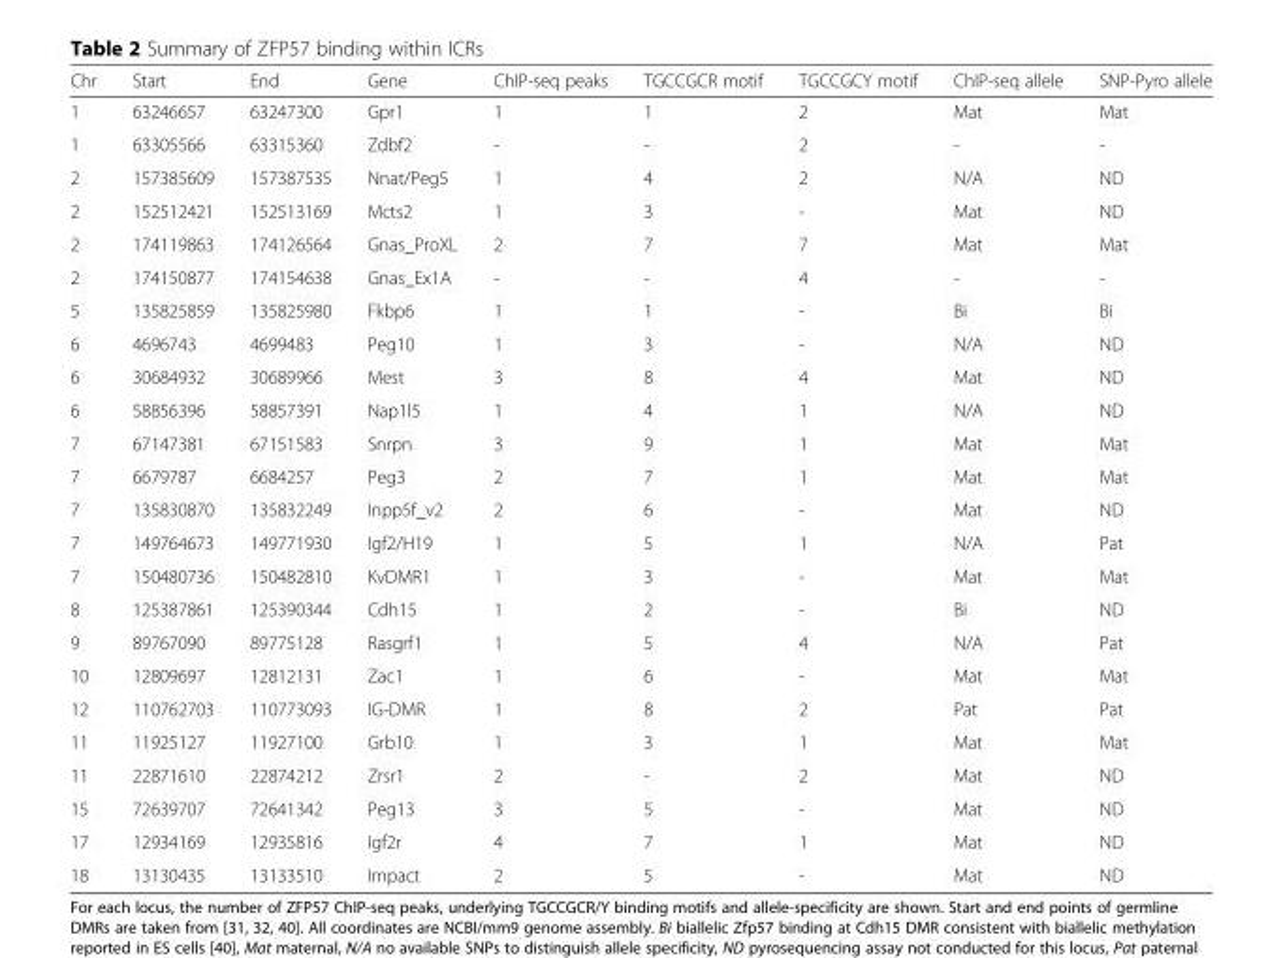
<table><thead><tr><td>Chr</td><td>Start</td><td>End</td><td>Gene</td><td>ChIP-seq peaks</td><td>TGCCGCR motif</td><td>TGCCGCY motif</td><td>ChIP-seq allele</td><td>SNP-Pyro allele</td></tr></thead><tbody><tr><td>1</td><td>63246657</td><td>63247300</td><td>Gpr1</td><td>1</td><td>1</td><td>2</td><td>Mat</td><td>Mat</td></tr><tr><td>1</td><td>63305566</td><td>63315360</td><td>Zdbf2</td><td>-</td><td>-</td><td>2</td><td>-</td><td>-</td></tr><tr><td>2</td><td>157385609</td><td>157387535</td><td>Nnat/Peg5</td><td>1</td><td>4</td><td>2</td><td>N/A</td><td>ND</td></tr><tr><td>2</td><td>152512421</td><td>152513169</td><td>Mcts2</td><td>1</td><td>3</td><td>-</td><td>Mat</td><td>ND</td></tr><tr><td>2</td><td>174119863</td><td>174126564</td><td>Gnas_ProXL</td><td>2</td><td>7</td><td>7</td><td>Mat</td><td>Mat</td></tr><tr><td>2</td><td>174150877</td><td>174154638</td><td>Gnas_Ex1A</td><td>-</td><td>-</td><td>4</td><td>-</td><td>-</td></tr><tr><td>5</td><td>135825859</td><td>135825980</td><td>Fkbp6</td><td>1</td><td>1</td><td>-</td><td>Bi</td><td>Bi</td></tr><tr><td>6</td><td>4696743</td><td>4699483</td><td>Peg10</td><td>1</td><td>3</td><td>-</td><td>N/A</td><td>ND</td></tr><tr><td>6</td><td>30684932</td><td>30689966</td><td>Mest</td><td>3</td><td>8</td><td>4</td><td>Mat</td><td>ND</td></tr><tr><td>6</td><td>58856396</td><td>58857391</td><td>Nap1l5</td><td>1</td><td>4</td><td>1</td><td>N/A</td><td>ND</td></tr><tr><td>7</td><td>67147381</td><td>67151583</td><td>Snrpn</td><td>3</td><td>9</td><td>1</td><td>Mat</td><td>Mat</td></tr><tr><td>7</td><td>6679787</td><td>6684257</td><td>Peg3</td><td>2</td><td>7</td><td>1</td><td>Mat</td><td>Mat</td></tr><tr><td>7</td><td>135830870</td><td>135832249</td><td>Inpp5f_v2</td><td>2</td><td>6</td><td>-</td><td>Mat</td><td>ND</td></tr><tr><td>7</td><td>149764673</td><td>149771930</td><td>Igf2/H19</td><td>1</td><td>5</td><td>1</td><td>N/A</td><td>Pat</td></tr><tr><td>7</td><td>150480736</td><td>150482810</td><td>KvDMR1</td><td>1</td><td>3</td><td>-</td><td>Mat</td><td>Mat</td></tr><tr><td>8</td><td>125387861</td><td>125390344</td><td>Cdh15</td><td>1</td><td>2</td><td>-</td><td>Bi</td><td>ND</td></tr><tr><td>9</td><td>89767090</td><td>89775128</td><td>Rasgrf1</td><td>1</td><td>5</td><td>4</td><td>N/A</td><td>Pat</td></tr><tr><td>10</td><td>12809697</td><td>12812131</td><td>Zac1</td><td>1</td><td>6</td><td>-</td><td>Mat</td><td>Mat</td></tr><tr><td>12</td><td>110762703</td><td>110773093</td><td>IG-DMR</td><td>1</td><td>8</td><td>2</td><td>Pat</td><td>Pat</td></tr><tr><td>11</td><td>11925127</td><td>11927100</td><td>Grb10</td><td>1</td><td>3</td><td>1</td><td>Mat</td><td>Mat</td></tr><tr><td>11</td><td>22871610</td><td>22874212</td><td>Zrsr1</td><td>2</td><td>-</td><td>2</td><td>Mat</td><td>ND</td></tr><tr><td>15</td><td>72639707</td><td>72641342</td><td>Peg13</td><td>3</td><td>5</td><td>-</td><td>Mat</td><td>ND</td></tr><tr><td>17</td><td>12934169</td><td>12935816</td><td>Igf2r</td><td>4</td><td>7</td><td>1</td><td>Mat</td><td>ND</td></tr><tr><td>18</td><td>13130435</td><td>13133510</td><td>Impact</td><td>2</td><td>5</td><td>-</td><td>Mat</td><td>ND</td></tr></tbody></table>